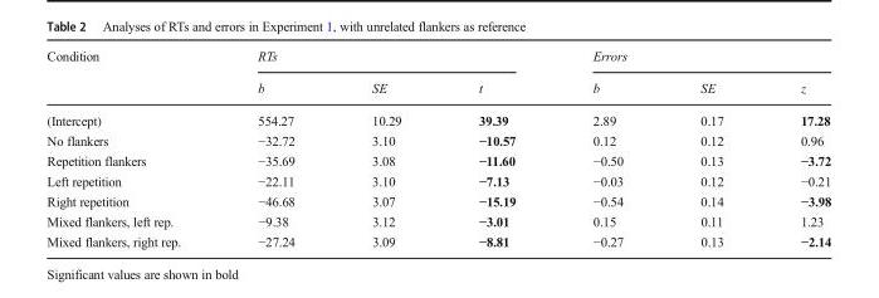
<table><thead><tr><td rowspan="2">Condition</td><td colspan="3">RTs</td><td colspan="3">Errors</td></tr><tr><td>b</td><td>SE</td><td>t</td><td>b</td><td>SE</td><td>z</td></tr></thead><tbody><tr><td>(Intercept)</td><td>554.27</td><td>10.29</td><td>39.39</td><td>2.89</td><td>0.17</td><td>17.28</td></tr><tr><td>No flankers</td><td>−32.72</td><td>3.10</td><td>−10.57</td><td>0.12</td><td>0.12</td><td>0.96</td></tr><tr><td>Repetition flankers</td><td>−35.69</td><td>3.08</td><td>−11.60</td><td>−0.50</td><td>0.13</td><td>−3.72</td></tr><tr><td>Left repetition</td><td>−22.11</td><td>3.10</td><td>−7.13</td><td>−0.03</td><td>0.12</td><td>−0.21</td></tr><tr><td>Right repetition</td><td>−46.68</td><td>3.07</td><td>−15.19</td><td>−0.54</td><td>0.14</td><td>−3.98</td></tr><tr><td>Mixed flankers, left rep.</td><td>−9.38</td><td>3.12</td><td>−3.01</td><td>0.15</td><td>0.11</td><td>1.23</td></tr><tr><td>Mixed flankers, right rep.</td><td>−27.24</td><td>3.09</td><td>−8.81</td><td>−0.27</td><td>0.13</td><td>−2.14</td></tr></tbody></table>